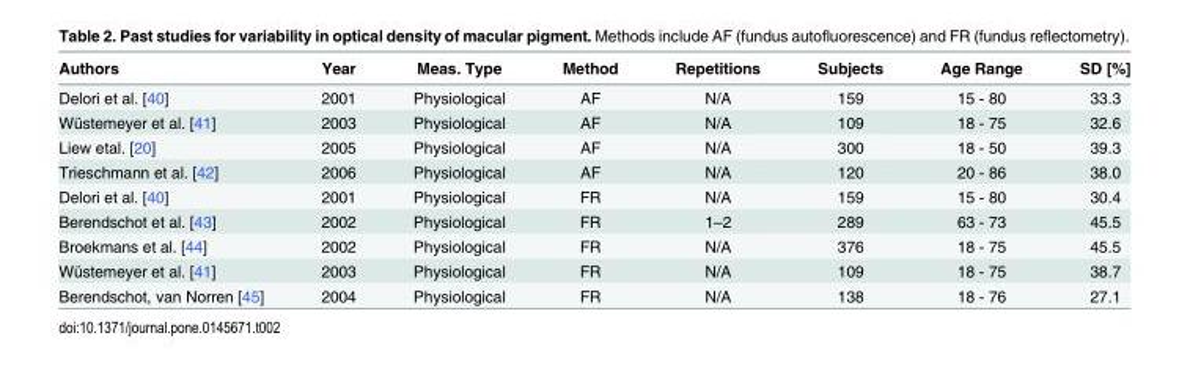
<table><thead><tr><td>Authors</td><td>Year</td><td>Meas. Type</td><td>Method</td><td>Repetitions</td><td>Subjects</td><td>Age Range</td><td>SD [%]</td></tr></thead><tbody><tr><td>Delori et al. [40]</td><td>2001</td><td>Physiological</td><td>AF</td><td>N/A</td><td>159</td><td>15 - 80</td><td>33.3</td></tr><tr><td>Wüstemeyer et al. [41]</td><td>2003</td><td>Physiological</td><td>AF</td><td>N/A</td><td>109</td><td>18 - 75</td><td>32.6</td></tr><tr><td>Liew etal. [20]</td><td>2005</td><td>Physiological</td><td>AF</td><td>N/A</td><td>300</td><td>18 - 50</td><td>39.3</td></tr><tr><td>Trieschmann et al. [42]</td><td>2006</td><td>Physiological</td><td>AF</td><td>N/A</td><td>120</td><td>20 - 86</td><td>38.0</td></tr><tr><td>Delori et al. [40]</td><td>2001</td><td>Physiological</td><td>FR</td><td>N/A</td><td>159</td><td>15 - 80</td><td>30.4</td></tr><tr><td>Berendschot et al. [43]</td><td>2002</td><td>Physiological</td><td>FR</td><td>1–2</td><td>289</td><td>63 - 73</td><td>45.5</td></tr><tr><td>Broekmans et al. [44]</td><td>2002</td><td>Physiological</td><td>FR</td><td>N/A</td><td>376</td><td>18 - 75</td><td>45.5</td></tr><tr><td>Wüstemeyer et al. [41]</td><td>2003</td><td>Physiological</td><td>FR</td><td>N/A</td><td>109</td><td>18 - 75</td><td>38.7</td></tr><tr><td>Berendschot, van Norren [45]</td><td>2004</td><td>Physiological</td><td>FR</td><td>N/A</td><td>138</td><td>18 - 76</td><td>27.1</td></tr></tbody></table>